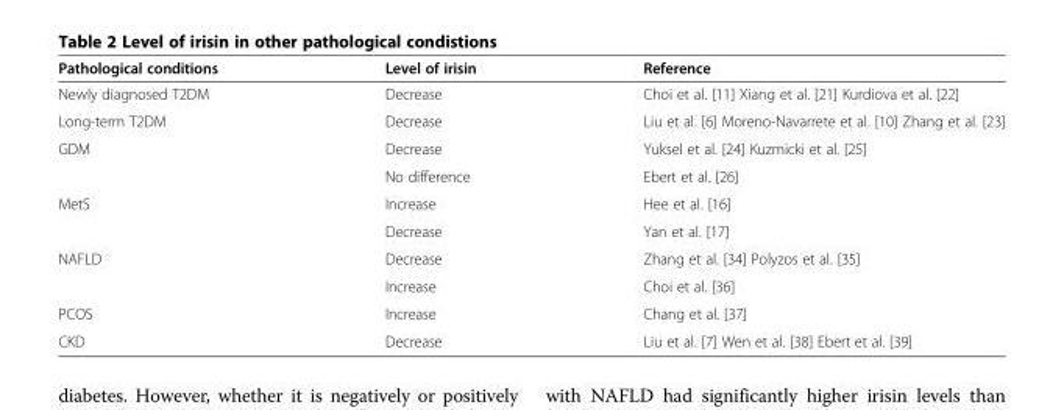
<table><thead><tr><td>Pathological conditions</td><td>Level of irisin</td><td>Reference</td></tr></thead><tbody><tr><td>Newly diagnosed T2DM</td><td>Decrease</td><td>Choi et al. [11] Xiang et al. [21] Kurdiova et al. [22]</td></tr><tr><td>Long-term T2DM</td><td>Decrease</td><td>Liu et al. [6] Moreno-Navarrete et al. [10] Zhang et al. [23]</td></tr><tr><td rowspan="2">GDM</td><td>Decrease</td><td>Yuksel et al. [24] Kuzmicki et al. [25]</td></tr><tr><td>No difference</td><td>Ebert et al. [26]</td></tr><tr><td rowspan="2">MetS</td><td>Increase</td><td>Hee et al. [16]</td></tr><tr><td>Decrease</td><td>Yan et al. [17]</td></tr><tr><td rowspan="2">NAFLD</td><td>Decrease</td><td>Zhang et al. [34] Polyzos et al. [35]</td></tr><tr><td>Increase</td><td>Choi et al. [36]</td></tr><tr><td>PCOS</td><td>Increase</td><td>Chang et al. [37]</td></tr><tr><td>CKD</td><td>Decrease</td><td>Liu et al. [7] Wen et al. [38] Ebert et al. [39]</td></tr></tbody></table>